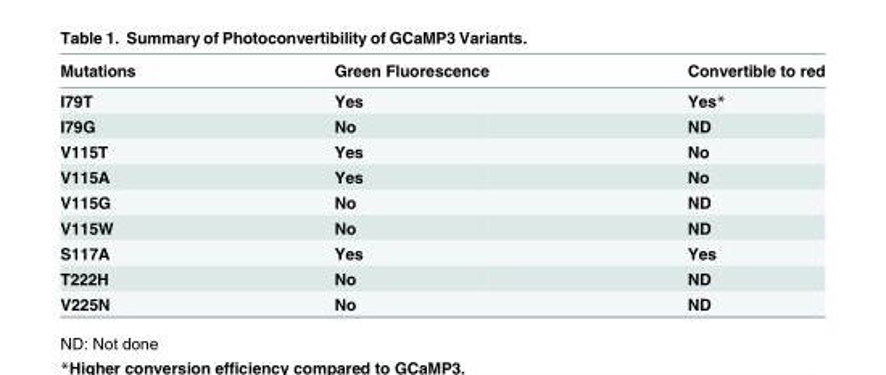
<table><thead><tr><td>Mutations</td><td>Green Fluorescence</td><td>Convertible to red</td></tr></thead><tbody><tr><td>I79T</td><td>Yes</td><td>Yes*</td></tr><tr><td>I79G</td><td>No</td><td>ND</td></tr><tr><td>V115T</td><td>Yes</td><td>No</td></tr><tr><td>V115A</td><td>Yes</td><td>No</td></tr><tr><td>V115G</td><td>No</td><td>ND</td></tr><tr><td>V115W</td><td>No</td><td>ND</td></tr><tr><td>S117A</td><td>Yes</td><td>Yes</td></tr><tr><td>T222H</td><td>No</td><td>ND</td></tr><tr><td>V225N</td><td>No</td><td>ND</td></tr></tbody></table>